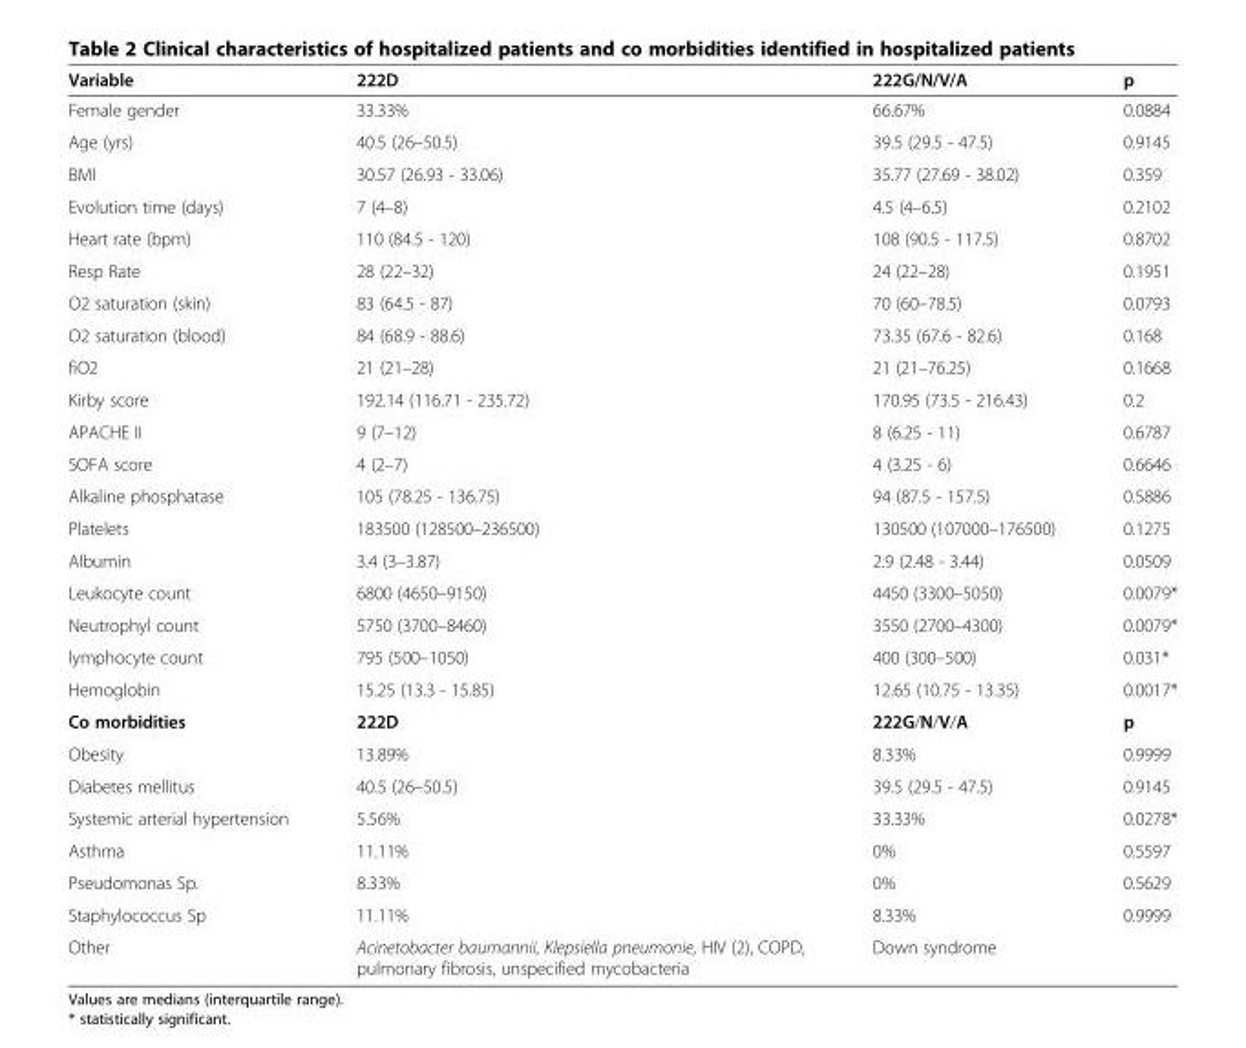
<table><thead><tr><td>Variable</td><td>222D</td><td>222G/N/V/A</td><td>p</td></tr></thead><tbody><tr><td>Female gender</td><td>33.33%</td><td>66.67%</td><td>0.0884</td></tr><tr><td>Age (yrs)</td><td>40.5 (26–50.5)</td><td>39.5 (29.5 - 47.5)</td><td>0.9145</td></tr><tr><td>BMI</td><td>30.57 (26.93 - 33.06)</td><td>35.77 (27.69 - 38.02)</td><td>0.359</td></tr><tr><td>Evolution time (days)</td><td>7 (4–8)</td><td>4.5 (4–6.5)</td><td>0.2102</td></tr><tr><td>Heart rate (bpm)</td><td>110 (84.5 - 120)</td><td>108 (90.5 - 117.5)</td><td>0.8702</td></tr><tr><td>Resp Rate</td><td>28 (22–32)</td><td>24 (22–28)</td><td>0.1951</td></tr><tr><td>O2 saturation (skin)</td><td>83 (64.5 - 87)</td><td>70 (60–78.5)</td><td>0.0793</td></tr><tr><td>O2 saturation (blood)</td><td>84 (68.9 - 88.6)</td><td>73.35 (67.6 - 82.6)</td><td>0.168</td></tr><tr><td>fiO2</td><td>21 (21–28)</td><td>21 (21–76.25)</td><td>0.1668</td></tr><tr><td>Kirby score</td><td>192.14 (116.71 - 235.72)</td><td>170.95 (73.5 - 216.43)</td><td>0.2</td></tr><tr><td>APACHE II</td><td>9 (7–12)</td><td>8 (6.25 - 11)</td><td>0.6787</td></tr><tr><td>SOFA score</td><td>4 (2–7)</td><td>4 (3.25 - 6)</td><td>0.6646</td></tr><tr><td>Alkaline phosphatase</td><td>105 (78.25 - 136.75)</td><td>94 (87.5 - 157.5)</td><td>0.5886</td></tr><tr><td>Platelets</td><td>183500 (128500–236500)</td><td>130500 (107000–176500)</td><td>0.1275</td></tr><tr><td>Albumin</td><td>3.4 (3–3.87)</td><td>2.9 (2.48 - 3.44)</td><td>0.0509</td></tr><tr><td>Leukocyte count</td><td>6800 (4650–9150)</td><td>4450 (3300–5050)</td><td>0.0079*</td></tr><tr><td>Neutrophyl count</td><td>5750 (3700–8460)</td><td>3550 (2700–4300)</td><td>0.0079*</td></tr><tr><td>lymphocyte count</td><td>795 (500–1050)</td><td>400 (300–500)</td><td>0.031*</td></tr><tr><td>Hemoglobin</td><td>15.25 (13.3 - 15.85)</td><td>12.65 (10.75 - 13.35)</td><td>0.0017*</td></tr><tr><td>Co morbidities</td><td>222D</td><td>222G/N/V/A</td><td>p</td></tr><tr><td>Obesity</td><td>13.89%</td><td>8.33%</td><td>0.9999</td></tr><tr><td>Diabetes mellitus</td><td>40.5 (26–50.5)</td><td>39.5 (29.5 - 47.5)</td><td>0.9145</td></tr><tr><td>Systemic arterial hypertension</td><td>5.56%</td><td>33.33%</td><td>0.0278*</td></tr><tr><td>Asthma</td><td>11.11%</td><td>0%</td><td>0.5597</td></tr><tr><td>Pseudomonas Sp.</td><td>8.33%</td><td>0%</td><td>0.5629</td></tr><tr><td>Staphylococcus Sp</td><td>11.11%</td><td>8.33%</td><td>0.9999</td></tr><tr><td>Other</td><td>Acinetobacter baumannii, Klepsiella pneumonie, HIV (2), COPD, pulmonary fibrosis, unspecified mycobacteria</td><td>Down syndrome</td><td></td></tr></tbody></table>